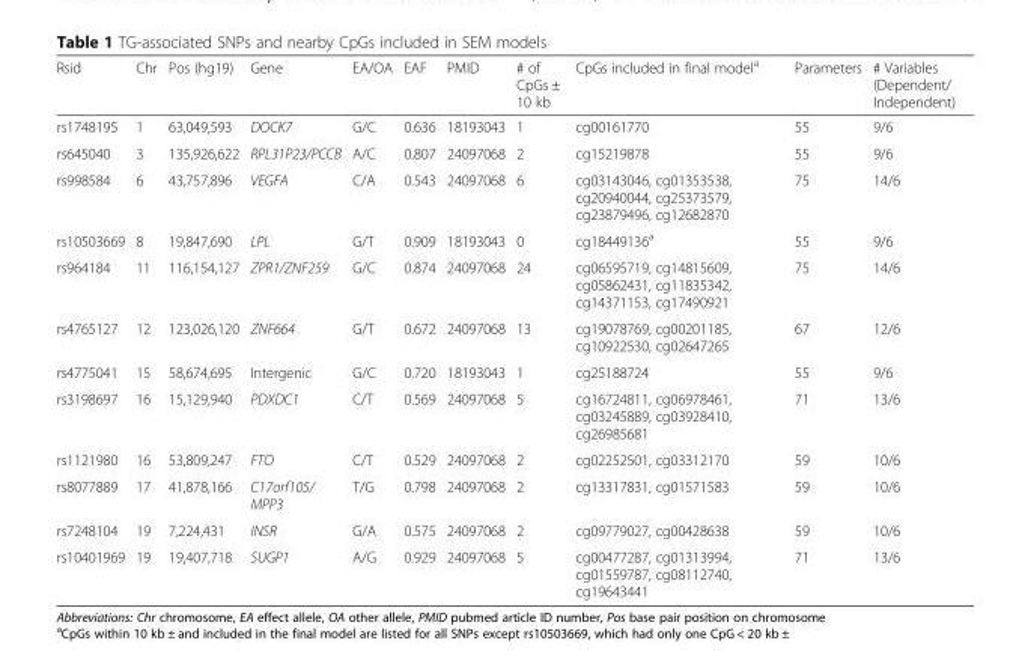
<table><thead><tr><td>Rsid</td><td>Chr</td><td>Pos (hg19)</td><td>Gene</td><td>EA/OA</td><td>EAF</td><td>PMID</td><td># of CpGs ± 10 kb</td><td>CpGs included in final model<sup>a</sup></td><td>Parameters</td><td># Variables (Dependent/ Independent)</td></tr></thead><tbody><tr><td>rs1748195</td><td>1</td><td>63,049,593</td><td>DOCK7</td><td>G/C</td><td>0.636</td><td>18193043</td><td>1</td><td>cg00161770</td><td>55</td><td>9/6</td></tr><tr><td>rs645040</td><td>3</td><td>135,926,622</td><td>RPL31P23/PCCB</td><td>A/C</td><td>0.807</td><td>24097068</td><td>2</td><td>cg15219878</td><td>55</td><td>9/6</td></tr><tr><td>rs998584</td><td>6</td><td>43,757,896</td><td>VEGFA</td><td>C/A</td><td>0.543</td><td>24097068</td><td>6</td><td>cg03143046, cg01353538, cg20940044, cg25373579, cg23879496, cg12682870</td><td>75</td><td>14/6</td></tr><tr><td>rs10503669</td><td>8</td><td>19,847,690</td><td>LPL</td><td>G/T</td><td>0.909</td><td>18193043</td><td>0</td><td>cg18449136<sup>a</sup></td><td>55</td><td>9/6</td></tr><tr><td>rs964184</td><td>11</td><td>116,154,127</td><td>ZPR1/ZNF259</td><td>G/C</td><td>0.874</td><td>24097068</td><td>24</td><td>cg06595719, cg14815609, cg05862431, cg11835342, cg14371153, cg17490921</td><td>75</td><td>14/6</td></tr><tr><td>rs4765127</td><td>12</td><td>123,026,120</td><td>ZNF664</td><td>G/T</td><td>0.672</td><td>24097068</td><td>13</td><td>cg19078769, cg00201185, cg10922530, cg02647265</td><td>67</td><td>12/6</td></tr><tr><td>rs4775041</td><td>15</td><td>58,674,695</td><td>Intergenic</td><td>G/C</td><td>0.720</td><td>18193043</td><td>1</td><td>cg25188724</td><td>55</td><td>9/6</td></tr><tr><td>rs3198697</td><td>16</td><td>15,129,940</td><td>PDXDC1</td><td>C/T</td><td>0.569</td><td>24097068</td><td>5</td><td>cg16724811, cg06978461, cg03245889, cg03928410, cg26985681</td><td>71</td><td>13/6</td></tr><tr><td>rs1121980</td><td>16</td><td>53,809,247</td><td>FTO</td><td>C/T</td><td>0.529</td><td>24097068</td><td>2</td><td>cg02252501, cg03312170</td><td>59</td><td>10/6</td></tr><tr><td>rs8077889</td><td>17</td><td>41,878,166</td><td>C17orf105/ MPP3</td><td>T/G</td><td>0.798</td><td>24097068</td><td>2</td><td>cg13317831, cg01571583</td><td>59</td><td>10/6</td></tr><tr><td>rs7248104</td><td>19</td><td>7,224,431</td><td>INSR</td><td>G/A</td><td>0.575</td><td>24097068</td><td>2</td><td>cg09779027, cg00428638</td><td>59</td><td>10/6</td></tr><tr><td>rs10401969</td><td>19</td><td>19,407,718</td><td>SUGP1</td><td>A/G</td><td>0.929</td><td>24097068</td><td>5</td><td>cg00477287, cg01313994, cg01559787, cg08112740, cg19643441</td><td>71</td><td>13/6</td></tr></tbody></table>